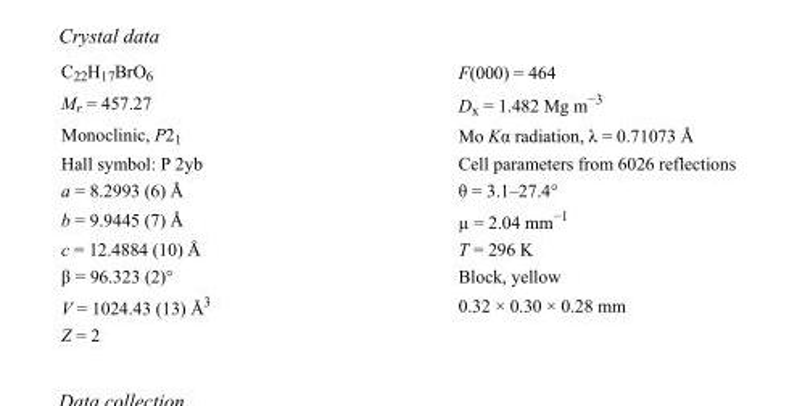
<table><tbody><tr><td>C<sub>22</sub>H<sub>17</sub>BrO<sub>6</sub></td><td>F(000) = 464</td></tr><tr><td>M<sub>r</sub> = 457.27</td><td>D<sub>x</sub> = 1.482 Mg m<sup>−3</sup></td></tr><tr><td>Monoclinic, P2<sub>1</sub></td><td>Mo Kα radiation, λ = 0.71073 Å</td></tr><tr><td>Hall symbol: P 2yb</td><td>Cell parameters from 6026 reflections</td></tr><tr><td>a = 8.2993 (6) Å</td><td>θ = 3.1–27.4°</td></tr><tr><td>b = 9.9445 (7) Å</td><td>µ = 2.04 mm<sup>−1</sup></td></tr><tr><td>c = 12.4884 (10) Å</td><td>T = 296 K</td></tr><tr><td>β = 96.323 (2)°</td><td>Block, yellow</td></tr><tr><td>V = 1024.43 (13) Å<sup>3</sup></td><td>0.32 × 0.30 × 0.28 mm</td></tr><tr><td>Z = 2</td><td></td></tr></tbody></table>